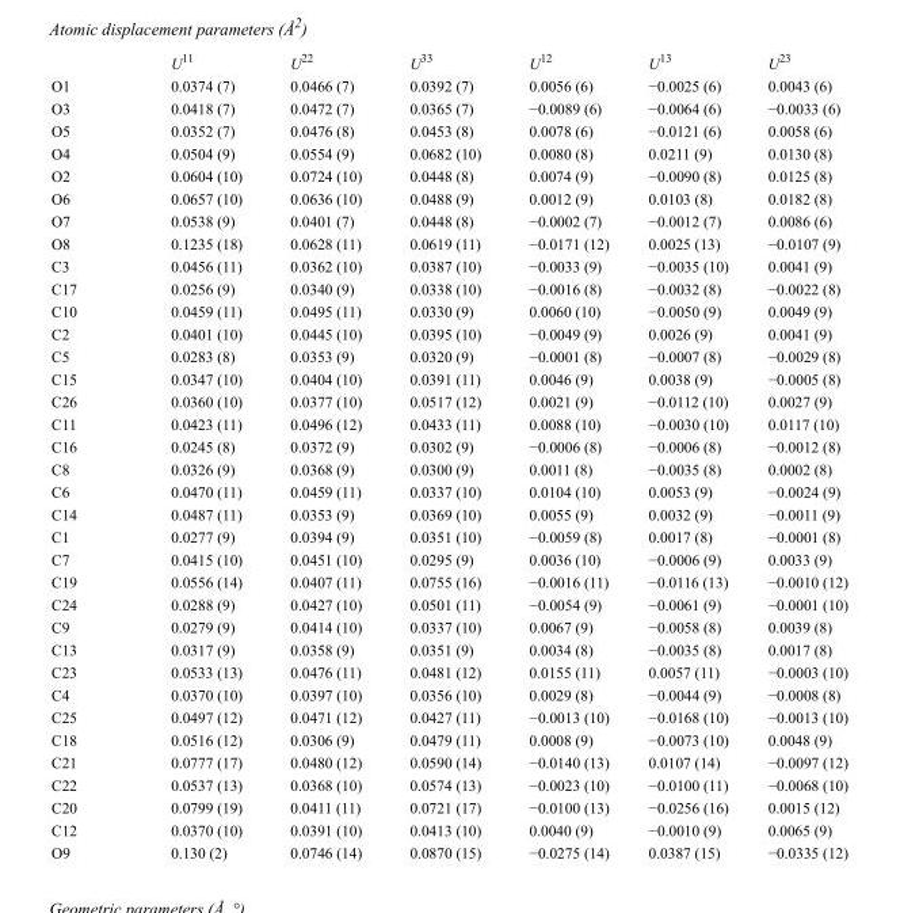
<table><thead><tr><td></td><td>U<sup>11</sup></td><td>U<sup>22</sup></td><td>U<sup>33</sup></td><td>U<sup>12</sup></td><td>U<sup>13</sup></td><td>U<sup>23</sup></td></tr></thead><tbody><tr><td>O1</td><td>0.0374 (7)</td><td>0.0466 (7)</td><td>0.0392 (7)</td><td>0.0056 (6)</td><td>−0.0025 (6)</td><td>0.0043 (6)</td></tr><tr><td>O3</td><td>0.0418 (7)</td><td>0.0472 (7)</td><td>0.0365 (7)</td><td>−0.0089 (6)</td><td>−0.0064 (6)</td><td>−0.0033 (6)</td></tr><tr><td>O5</td><td>0.0352 (7)</td><td>0.0476 (8)</td><td>0.0453 (8)</td><td>0.0078 (6)</td><td>−0.0121 (6)</td><td>0.0058 (6)</td></tr><tr><td>O4</td><td>0.0504 (9)</td><td>0.0554 (9)</td><td>0.0682 (10)</td><td>0.0080 (8)</td><td>0.0211 (9)</td><td>0.0130 (8)</td></tr><tr><td>O2</td><td>0.0604 (10)</td><td>0.0724 (10)</td><td>0.0448 (8)</td><td>0.0074 (9)</td><td>−0.0090 (8)</td><td>0.0125 (8)</td></tr><tr><td>O6</td><td>0.0657 (10)</td><td>0.0636 (10)</td><td>0.0488 (9)</td><td>0.0012 (9)</td><td>0.0103 (8)</td><td>0.0182 (8)</td></tr><tr><td>O7</td><td>0.0538 (9)</td><td>0.0401 (7)</td><td>0.0448 (8)</td><td>−0.0002 (7)</td><td>−0.0012 (7)</td><td>0.0086 (6)</td></tr><tr><td>O8</td><td>0.1235 (18)</td><td>0.0628 (11)</td><td>0.0619 (11)</td><td>−0.0171 (12)</td><td>0.0025 (13)</td><td>−0.0107 (9)</td></tr><tr><td>C3</td><td>0.0456 (11)</td><td>0.0362 (10)</td><td>0.0387 (10)</td><td>−0.0033 (9)</td><td>−0.0035 (10)</td><td>0.0041 (9)</td></tr><tr><td>C17</td><td>0.0256 (9)</td><td>0.0340 (9)</td><td>0.0338 (10)</td><td>−0.0016 (8)</td><td>−0.0032 (8)</td><td>−0.0022 (8)</td></tr><tr><td>C10</td><td>0.0459 (11)</td><td>0.0495 (11)</td><td>0.0330 (9)</td><td>0.0060 (10)</td><td>−0.0050 (9)</td><td>0.0049 (9)</td></tr><tr><td>C2</td><td>0.0401 (10)</td><td>0.0445 (10)</td><td>0.0395 (10)</td><td>−0.0049 (9)</td><td>0.0026 (9)</td><td>0.0041 (9)</td></tr><tr><td>C5</td><td>0.0283 (8)</td><td>0.0353 (9)</td><td>0.0320 (9)</td><td>−0.0001 (8)</td><td>−0.0007 (8)</td><td>−0.0029 (8)</td></tr><tr><td>C15</td><td>0.0347 (10)</td><td>0.0404 (10)</td><td>0.0391 (11)</td><td>0.0046 (9)</td><td>0.0038 (9)</td><td>−0.0005 (8)</td></tr><tr><td>C26</td><td>0.0360 (10)</td><td>0.0377 (10)</td><td>0.0517 (12)</td><td>0.0021 (9)</td><td>−0.0112 (10)</td><td>0.0027 (9)</td></tr><tr><td>C11</td><td>0.0423 (11)</td><td>0.0496 (12)</td><td>0.0433 (11)</td><td>0.0088 (10)</td><td>−0.0030 (10)</td><td>0.0117 (10)</td></tr><tr><td>C16</td><td>0.0245 (8)</td><td>0.0372 (9)</td><td>0.0302 (9)</td><td>−0.0006 (8)</td><td>−0.0006 (8)</td><td>−0.0012 (8)</td></tr><tr><td>C8</td><td>0.0326 (9)</td><td>0.0368 (9)</td><td>0.0300 (9)</td><td>0.0011 (8)</td><td>−0.0035 (8)</td><td>0.0002 (8)</td></tr><tr><td>C6</td><td>0.0470 (11)</td><td>0.0459 (11)</td><td>0.0337 (10)</td><td>0.0104 (10)</td><td>0.0053 (9)</td><td>−0.0024 (9)</td></tr><tr><td>C14</td><td>0.0487 (11)</td><td>0.0353 (9)</td><td>0.0369 (10)</td><td>0.0055 (9)</td><td>0.0032 (9)</td><td>−0.0011 (9)</td></tr><tr><td>C1</td><td>0.0277 (9)</td><td>0.0394 (9)</td><td>0.0351 (10)</td><td>−0.0059 (8)</td><td>0.0017 (8)</td><td>−0.0001 (8)</td></tr><tr><td>C7</td><td>0.0415 (10)</td><td>0.0451 (10)</td><td>0.0295 (9)</td><td>0.0036 (10)</td><td>−0.0006 (9)</td><td>0.0033 (9)</td></tr><tr><td>C19</td><td>0.0556 (14)</td><td>0.0407 (11)</td><td>0.0755 (16)</td><td>−0.0016 (11)</td><td>−0.0116 (13)</td><td>−0.0010 (12)</td></tr><tr><td>C24</td><td>0.0288 (9)</td><td>0.0427 (10)</td><td>0.0501 (11)</td><td>−0.0054 (9)</td><td>−0.0061 (9)</td><td>−0.0001 (10)</td></tr><tr><td>C9</td><td>0.0279 (9)</td><td>0.0414 (10)</td><td>0.0337 (10)</td><td>0.0067 (9)</td><td>−0.0058 (8)</td><td>0.0039 (8)</td></tr><tr><td>C13</td><td>0.0317 (9)</td><td>0.0358 (9)</td><td>0.0351 (9)</td><td>0.0034 (8)</td><td>−0.0035 (8)</td><td>0.0017 (8)</td></tr><tr><td>C23</td><td>0.0533 (13)</td><td>0.0476 (11)</td><td>0.0481 (12)</td><td>0.0155 (11)</td><td>0.0057 (11)</td><td>−0.0003 (10)</td></tr><tr><td>C4</td><td>0.0370 (10)</td><td>0.0397 (10)</td><td>0.0356 (10)</td><td>0.0029 (8)</td><td>−0.0044 (9)</td><td>−0.0008 (8)</td></tr><tr><td>C25</td><td>0.0497 (12)</td><td>0.0471 (12)</td><td>0.0427 (11)</td><td>−0.0013 (10)</td><td>−0.0168 (10)</td><td>−0.0013 (10)</td></tr><tr><td>C18</td><td>0.0516 (12)</td><td>0.0306 (9)</td><td>0.0479 (11)</td><td>0.0008 (9)</td><td>−0.0073 (10)</td><td>0.0048 (9)</td></tr><tr><td>C21</td><td>0.0777 (17)</td><td>0.0480 (12)</td><td>0.0590 (14)</td><td>−0.0140 (13)</td><td>0.0107 (14)</td><td>−0.0097 (12)</td></tr><tr><td>C22</td><td>0.0537 (13)</td><td>0.0368 (10)</td><td>0.0574 (13)</td><td>−0.0023 (10)</td><td>−0.0100 (11)</td><td>−0.0068 (10)</td></tr><tr><td>C20</td><td>0.0799 (19)</td><td>0.0411 (11)</td><td>0.0721 (17)</td><td>−0.0100 (13)</td><td>−0.0256 (16)</td><td>0.0015 (12)</td></tr><tr><td>C12</td><td>0.0370 (10)</td><td>0.0391 (10)</td><td>0.0413 (10)</td><td>0.0040 (9)</td><td>−0.0010 (9)</td><td>0.0065 (9)</td></tr><tr><td>O9</td><td>0.130 (2)</td><td>0.0746 (14)</td><td>0.0870 (15)</td><td>−0.0275 (14)</td><td>0.0387 (15)</td><td>−0.0335 (12)</td></tr></tbody></table>